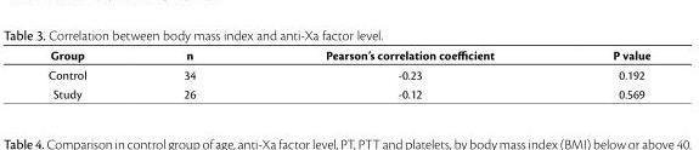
<table><thead><tr><td>Group</td><td>n</td><td>Pearson’s correlation coefficient</td><td>P value</td></tr></thead><tbody><tr><td>Control</td><td>34</td><td>-0.23</td><td>0.192</td></tr><tr><td>Study</td><td>26</td><td>-0.12</td><td>0.569</td></tr></tbody></table>